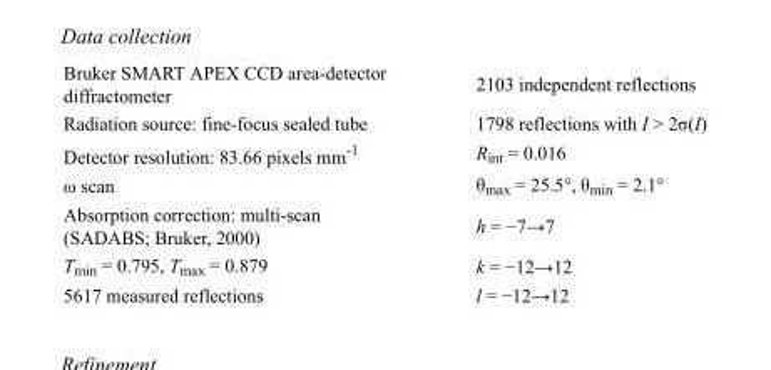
<table><tbody><tr><td>Bruker SMART APEX CCD area-detector diffractometer</td><td>2103 independent reflections</td></tr><tr><td>Radiation source: fine-focus sealed tube</td><td>1798 reflections with I &gt; 2σ(I)</td></tr><tr><td>Detector resolution: 83.66 pixels mm<sup>-1</sup></td><td>R<sub>int</sub> = 0.016</td></tr><tr><td>ω scan</td><td>θ<sub>max</sub> = 25.5°, θ<sub>min</sub> = 2.1°</td></tr><tr><td>Absorption correction: multi-scan (SADABS; Bruker, 2000)</td><td>h = −7→7</td></tr><tr><td>T<sub>min</sub> = 0.795, T<sub>max</sub> = 0.879</td><td>k = −12→12</td></tr><tr><td>5617 measured reflections</td><td>l = −12→12</td></tr></tbody></table>